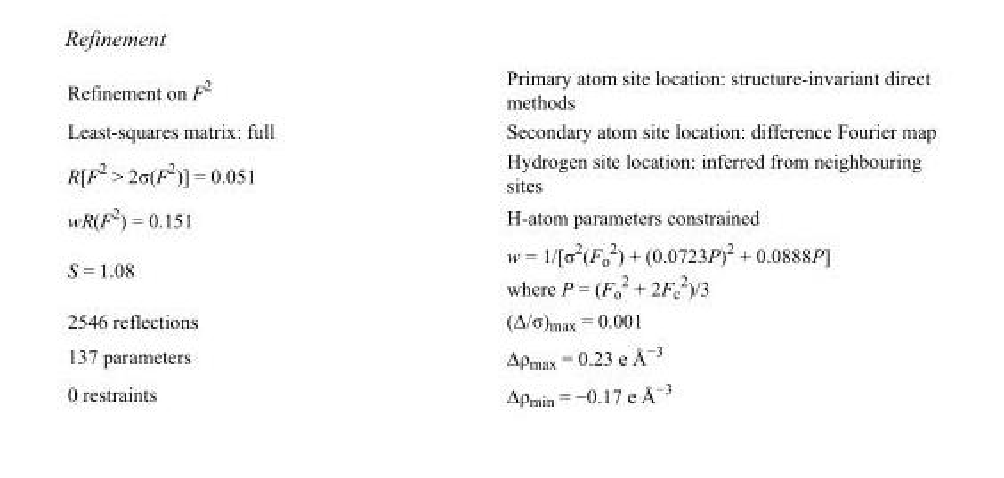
<table><tbody><tr><td>Refinement on F<sup>2</sup></td><td>Primary atom site location: structure-invariant direct methods</td></tr><tr><td>Least-squares matrix: full</td><td>Secondary atom site location: difference Fourier map</td></tr><tr><td>R[F<sup>2</sup> &gt; 2σ(F<sup>2</sup>)] = 0.051</td><td>Hydrogen site location: inferred from neighbouring sites</td></tr><tr><td>wR(F<sup>2</sup>) = 0.151</td><td>H-atom parameters constrained</td></tr><tr><td>S = 1.08</td><td>w = 1/[σ<sup>2</sup>(F<sub>o</sub> <sup>2</sup>) + (0.0723P)<sup>2</sup> + 0.0888P] where P = (F<sub>o</sub> <sup>2</sup> + 2F<sub>c</sub> <sup>2</sup>)/3</td></tr><tr><td>2546 reflections</td><td>(Δ/σ)<sub>max</sub> = 0.001</td></tr><tr><td>137 parameters</td><td>Δρ<sub>max</sub> = 0.23 e Å<sup>−3</sup></td></tr><tr><td>0 restraints</td><td>Δρ<sub>min</sub> = −0.17 e Å<sup>−3</sup></td></tr></tbody></table>